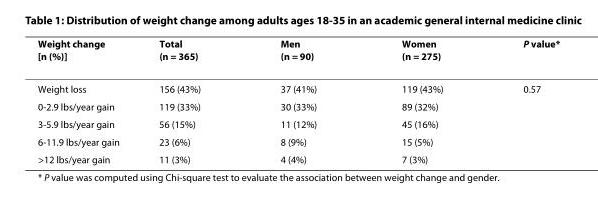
<table><thead><tr><td>Weight change [n (%)]</td><td>Total (n = 365)</td><td>Men (n = 90)</td><td>Women (n = 275)</td><td>P value*</td></tr></thead><tbody><tr><td>Weight loss</td><td>156 (43%)</td><td>37 (41%)</td><td>119 (43%)</td><td>0.57</td></tr><tr><td>0-2.9 lbs/year gain</td><td>119 (33%)</td><td>30 (33%)</td><td>89 (32%)</td><td></td></tr><tr><td>3-5.9 lbs/year gain</td><td>56 (15%)</td><td>11 (12%)</td><td>45 (16%)</td><td></td></tr><tr><td>6-11.9 lbs/year gain</td><td>23 (6%)</td><td>8 (9%)</td><td>15 (5%)</td><td></td></tr><tr><td>&gt;12 lbs/year gain</td><td>11 (3%)</td><td>4 (4%)</td><td>7 (3%)</td><td></td></tr></tbody></table>